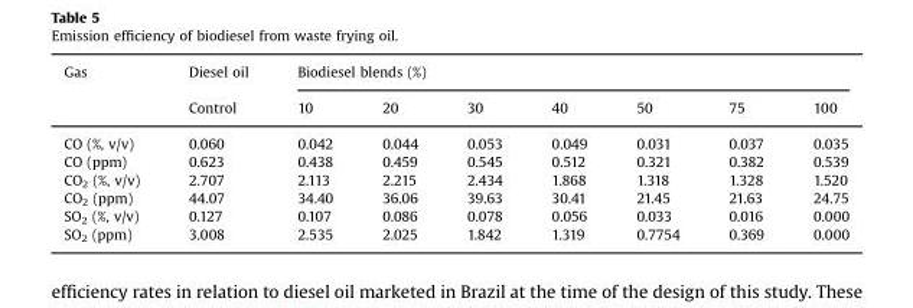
<table><thead><tr><td rowspan="2">Gas</td><td rowspan="2">Diesel oil Control</td><td colspan="7">Biodiesel blends (%)</td></tr><tr><td>10</td><td>20</td><td>30</td><td>40</td><td>50</td><td>75</td><td>100</td></tr></thead><tbody><tr><td>CO (%, v/v)</td><td>0.060</td><td>0.042</td><td>0.044</td><td>0.053</td><td>0.049</td><td>0.031</td><td>0.037</td><td>0.035</td></tr><tr><td>CO (ppm)</td><td>0.623</td><td>0.438</td><td>0.459</td><td>0.545</td><td>0.512</td><td>0.321</td><td>0.382</td><td>0.539</td></tr><tr><td>CO<sub>2</sub> (%, v/v)</td><td>2.707</td><td>2.113</td><td>2.215</td><td>2.434</td><td>1.868</td><td>1.318</td><td>1.328</td><td>1.520</td></tr><tr><td>CO<sub>2</sub> (ppm)</td><td>44.07</td><td>34.40</td><td>36.06</td><td>39.63</td><td>30.41</td><td>21.45</td><td>21.63</td><td>24.75</td></tr><tr><td>SO<sub>2</sub> (%, v/v)</td><td>0.127</td><td>0.107</td><td>0.086</td><td>0.078</td><td>0.056</td><td>0.033</td><td>0.016</td><td>0.000</td></tr><tr><td>SO<sub>2</sub> (ppm)</td><td>3.008</td><td>2.535</td><td>2.025</td><td>1.842</td><td>1.319</td><td>0.7754</td><td>0.369</td><td>0.000</td></tr></tbody></table>